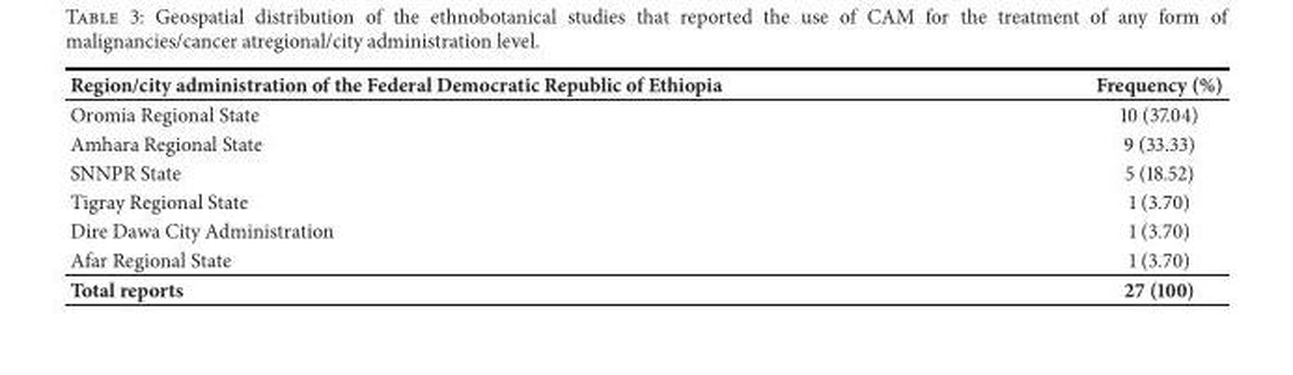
<table><thead><tr><td>Region/city administration of the Federal Democratic Republic of Ethiopia</td><td>Frequency (%)</td></tr></thead><tbody><tr><td>Oromia Regional State</td><td>10 (37.04)</td></tr><tr><td>Amhara Regional State</td><td>9 (33.33)</td></tr><tr><td>SNNPR State</td><td>5 (18.52)</td></tr><tr><td>Tigray Regional State</td><td>1 (3.70)</td></tr><tr><td>Dire Dawa City Administration</td><td>1 (3.70)</td></tr><tr><td>Afar Regional State</td><td>1 (3.70)</td></tr><tr><td>Total reports</td><td>27 (100)</td></tr></tbody></table>